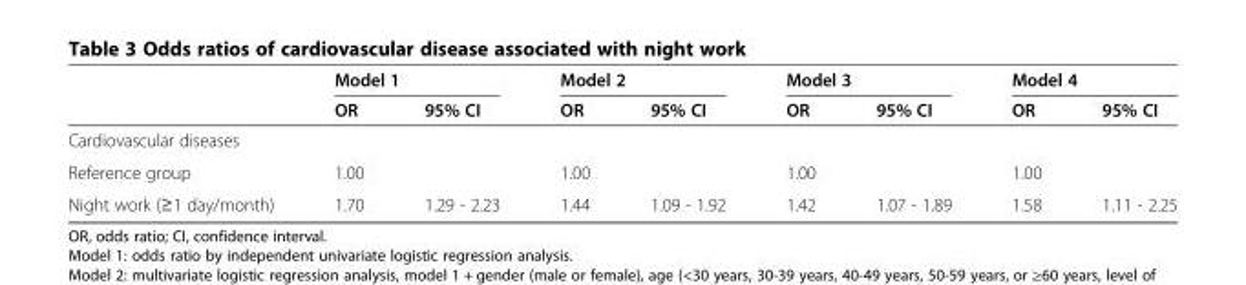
<table><thead><tr><td rowspan="2"></td><td colspan="2">Model 1</td><td colspan="2">Model 2</td><td colspan="2">Model 3</td><td colspan="2">Model 4</td></tr><tr><td>OR</td><td>95% CI</td><td>OR</td><td>95% CI</td><td>OR</td><td>95% CI</td><td>OR</td><td>95% CI</td></tr></thead><tbody><tr><td colspan="9">Cardiovascular diseases</td></tr><tr><td>Reference group</td><td>1.00</td><td></td><td>1.00</td><td></td><td>1.00</td><td></td><td>1.00</td><td></td></tr><tr><td>Night work (≥1 day/month)</td><td>1.70</td><td>1.29 - 2.23</td><td>1.44</td><td>1.09 - 1.92</td><td>1.42</td><td>1.07 - 1.89</td><td>1.58</td><td>1.11 - 2.25</td></tr></tbody></table>